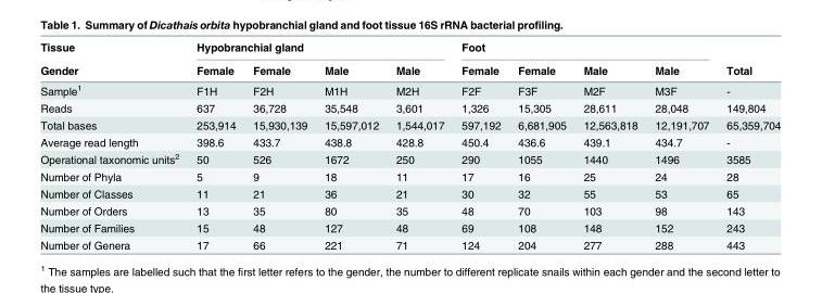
<table><thead><tr><td rowspan="2">Tissue Gender</td><td colspan="4">Hypobranchial gland</td><td colspan="4">Foot</td><td rowspan="2">Total</td></tr><tr><td>Female</td><td>Female</td><td>Male</td><td>Male</td><td>Female</td><td>Female</td><td>Male</td><td>Male</td></tr></thead><tbody><tr><td>Sample<sup>1</sup></td><td>F1H</td><td>F2H</td><td>M1H</td><td>M2H</td><td>F2F</td><td>F3F</td><td>M2F</td><td>M3F</td><td>-</td></tr><tr><td>Reads</td><td>637</td><td>36,728</td><td>35,548</td><td>3,601</td><td>1,326</td><td>15,305</td><td>28,611</td><td>28,048</td><td>149,804</td></tr><tr><td>Total bases</td><td>253,914</td><td>15,930,139</td><td>15,597,012</td><td>1,544,017</td><td>597,192</td><td>6,681,905</td><td>12,563,818</td><td>12,191,707</td><td>65,359,704</td></tr><tr><td>Average read length</td><td>398.6</td><td>433.7</td><td>438.8</td><td>428.8</td><td>450.4</td><td>436.6</td><td>439.1</td><td>434.7</td><td>-</td></tr><tr><td>Operational taxonomic units<sup>2</sup></td><td>50</td><td>526</td><td>1672</td><td>250</td><td>290</td><td>1055</td><td>1440</td><td>1496</td><td>3585</td></tr><tr><td>Number of Phyla</td><td>5</td><td>9</td><td>18</td><td>11</td><td>17</td><td>16</td><td>25</td><td>24</td><td>28</td></tr><tr><td>Number of Classes</td><td>11</td><td>21</td><td>36</td><td>21</td><td>30</td><td>32</td><td>55</td><td>53</td><td>65</td></tr><tr><td>Number of Orders</td><td>13</td><td>35</td><td>80</td><td>35</td><td>48</td><td>70</td><td>103</td><td>98</td><td>143</td></tr><tr><td>Number of Families</td><td>15</td><td>48</td><td>127</td><td>48</td><td>69</td><td>108</td><td>148</td><td>152</td><td>243</td></tr><tr><td>Number of Genera</td><td>17</td><td>66</td><td>221</td><td>71</td><td>124</td><td>204</td><td>277</td><td>288</td><td>443</td></tr></tbody></table>